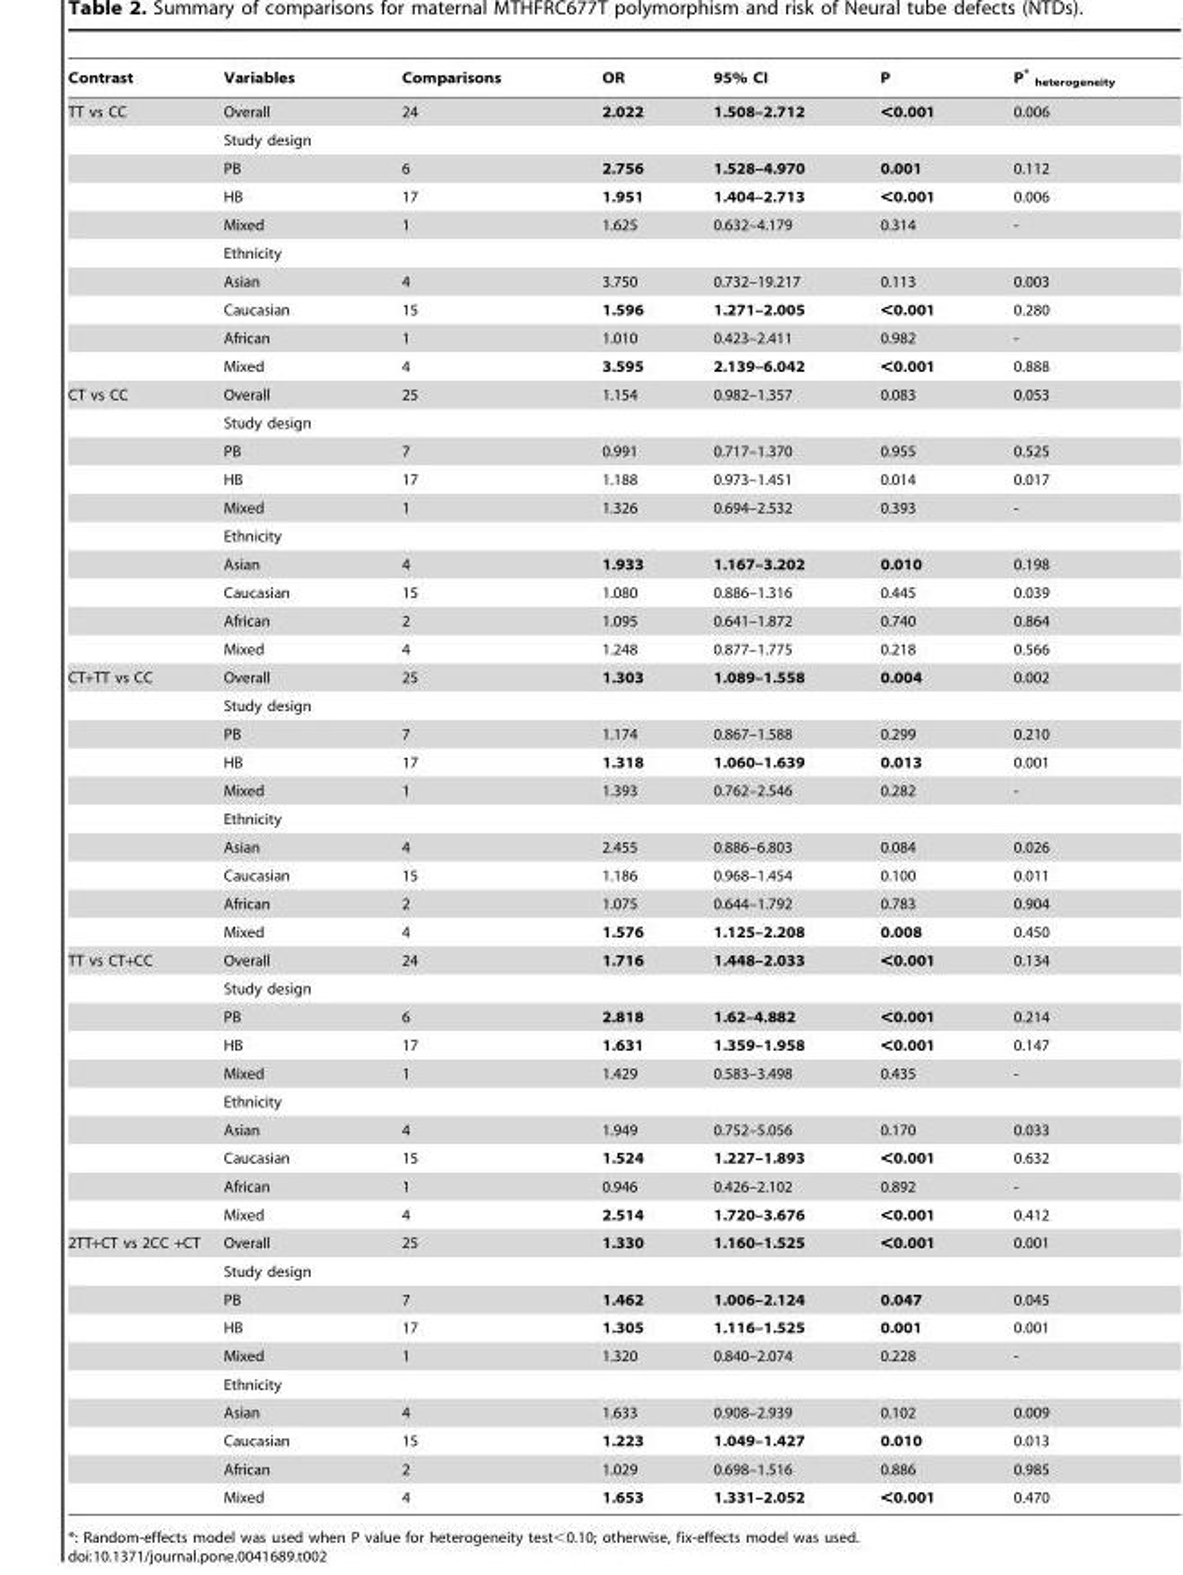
<table><thead><tr><td>Contrast</td><td>Variables</td><td>Comparisons</td><td>OR</td><td>95% CI</td><td>P</td><td>P* <sub>heterogeneity</sub></td></tr></thead><tbody><tr><td rowspan="10">TT vs CC</td><td>Overall</td><td>24</td><td>2.022</td><td>1.508–2.712</td><td>&lt;0.001</td><td>0.006</td></tr><tr><td>Study design</td><td></td><td></td><td></td><td></td><td></td></tr><tr><td>PB</td><td>6</td><td>2.756</td><td>1.528–4.970</td><td>0.001</td><td>0.112</td></tr><tr><td>HB</td><td>17</td><td>1.951</td><td>1.404–2.713</td><td>&lt;0.001</td><td>0.006</td></tr><tr><td>Mixed</td><td>1</td><td>1.625</td><td>0.632–4.179</td><td>0.314</td><td>-</td></tr><tr><td>Ethnicity</td><td></td><td></td><td></td><td></td><td></td></tr><tr><td>Asian</td><td>4</td><td>3.750</td><td>0.732–19.217</td><td>0.113</td><td>0.003</td></tr><tr><td>Caucasian</td><td>15</td><td>1.596</td><td>1.271–2.005</td><td>&lt;0.001</td><td>0.280</td></tr><tr><td>African</td><td>1</td><td>1.010</td><td>0.423–2.411</td><td>0.982</td><td>-</td></tr><tr><td>Mixed</td><td>4</td><td>3.595</td><td>2.139–6.042</td><td>&lt;0.001</td><td>0.888</td></tr><tr><td rowspan="10">CT vs CC</td><td>Overall</td><td>25</td><td>1.154</td><td>0.982–1.357</td><td>0.083</td><td>0.053</td></tr><tr><td>Study design</td><td></td><td></td><td></td><td></td><td></td></tr><tr><td>PB</td><td>7</td><td>0.991</td><td>0.717–1.370</td><td>0.955</td><td>0.525</td></tr><tr><td>HB</td><td>17</td><td>1.188</td><td>0.973–1.451</td><td>0.014</td><td>0.017</td></tr><tr><td>Mixed</td><td>1</td><td>1.326</td><td>0.694–2.532</td><td>0.393</td><td>-</td></tr><tr><td>Ethnicity</td><td></td><td></td><td></td><td></td><td></td></tr><tr><td>Asian</td><td>4</td><td>1.933</td><td>1.167–3.202</td><td>0.010</td><td>0.198</td></tr><tr><td>Caucasian</td><td>15</td><td>1.080</td><td>0.886–1.316</td><td>0.445</td><td>0.039</td></tr><tr><td>African</td><td>2</td><td>1.095</td><td>0.641–1.872</td><td>0.740</td><td>0.864</td></tr><tr><td>Mixed</td><td>4</td><td>1.248</td><td>0.877–1.775</td><td>0.218</td><td>0.566</td></tr><tr><td rowspan="10">CT+TT vs CC</td><td>Overall</td><td>25</td><td>1.303</td><td>1.089–1.558</td><td>0.004</td><td>0.002</td></tr><tr><td>Study design</td><td></td><td></td><td></td><td></td><td></td></tr><tr><td>PB</td><td>7</td><td>1.174</td><td>0.867–1.588</td><td>0.299</td><td>0.210</td></tr><tr><td>HB</td><td>17</td><td>1.318</td><td>1.060–1.639</td><td>0.013</td><td>0.001</td></tr><tr><td>Mixed</td><td>1</td><td>1.393</td><td>0.762–2.546</td><td>0.282</td><td>-</td></tr><tr><td>Ethnicity</td><td></td><td></td><td></td><td></td><td></td></tr><tr><td>Asian</td><td>4</td><td>2.455</td><td>0.886–6.803</td><td>0.084</td><td>0.026</td></tr><tr><td>Caucasian</td><td>15</td><td>1.186</td><td>0.968–1.454</td><td>0.100</td><td>0.011</td></tr><tr><td>African</td><td>2</td><td>1.075</td><td>0.644–1.792</td><td>0.783</td><td>0.904</td></tr><tr><td>Mixed</td><td>4</td><td>1.576</td><td>1.125–2.208</td><td>0.008</td><td>0.450</td></tr><tr><td rowspan="10">TT vs CT+CC</td><td>Overall</td><td>24</td><td>1.716</td><td>1.448–2.033</td><td>&lt;0.001</td><td>0.134</td></tr><tr><td>Study design</td><td></td><td></td><td></td><td></td><td></td></tr><tr><td>PB</td><td>6</td><td>2.818</td><td>1.62–4.882</td><td>&lt;0.001</td><td>0.214</td></tr><tr><td>HB</td><td>17</td><td>1.631</td><td>1.359–1.958</td><td>&lt;0.001</td><td>0.147</td></tr><tr><td>Mixed</td><td>1</td><td>1.429</td><td>0.583–3.498</td><td>0.435</td><td>-</td></tr><tr><td>Ethnicity</td><td></td><td></td><td></td><td></td><td></td></tr><tr><td>Asian</td><td>4</td><td>1.949</td><td>0.752–5.056</td><td>0.170</td><td>0.033</td></tr><tr><td>Caucasian</td><td>15</td><td>1.524</td><td>1.227–1.893</td><td>&lt;0.001</td><td>0.632</td></tr><tr><td>African</td><td>1</td><td>0.946</td><td>0.426–2.102</td><td>0.892</td><td>-</td></tr><tr><td>Mixed</td><td>4</td><td>2.514</td><td>1.720–3.676</td><td>&lt;0.001</td><td>0.412</td></tr><tr><td rowspan="10">2TT+CT vs 2CC +CT</td><td>Overall</td><td>25</td><td>1.330</td><td>1.160–1.525</td><td>&lt;0.001</td><td>0.001</td></tr><tr><td>Study design</td><td></td><td></td><td></td><td></td><td></td></tr><tr><td>PB</td><td>7</td><td>1.462</td><td>1.006–2.124</td><td>0.047</td><td>0.045</td></tr><tr><td>HB</td><td>17</td><td>1.305</td><td>1.116–1.525</td><td>0.001</td><td>0.001</td></tr><tr><td>Mixed</td><td>1</td><td>1.320</td><td>0.840–2.074</td><td>0.228</td><td>-</td></tr><tr><td>Ethnicity</td><td></td><td></td><td></td><td></td><td></td></tr><tr><td>Asian</td><td>4</td><td>1.633</td><td>0.908–2.939</td><td>0.102</td><td>0.009</td></tr><tr><td>Caucasian</td><td>15</td><td>1.223</td><td>1.049–1.427</td><td>0.010</td><td>0.013</td></tr><tr><td>African</td><td>2</td><td>1.029</td><td>0.698–1.516</td><td>0.886</td><td>0.985</td></tr><tr><td>Mixed</td><td>4</td><td>1.653</td><td>1.331–2.052</td><td>&lt;0.001</td><td>0.470</td></tr></tbody></table>